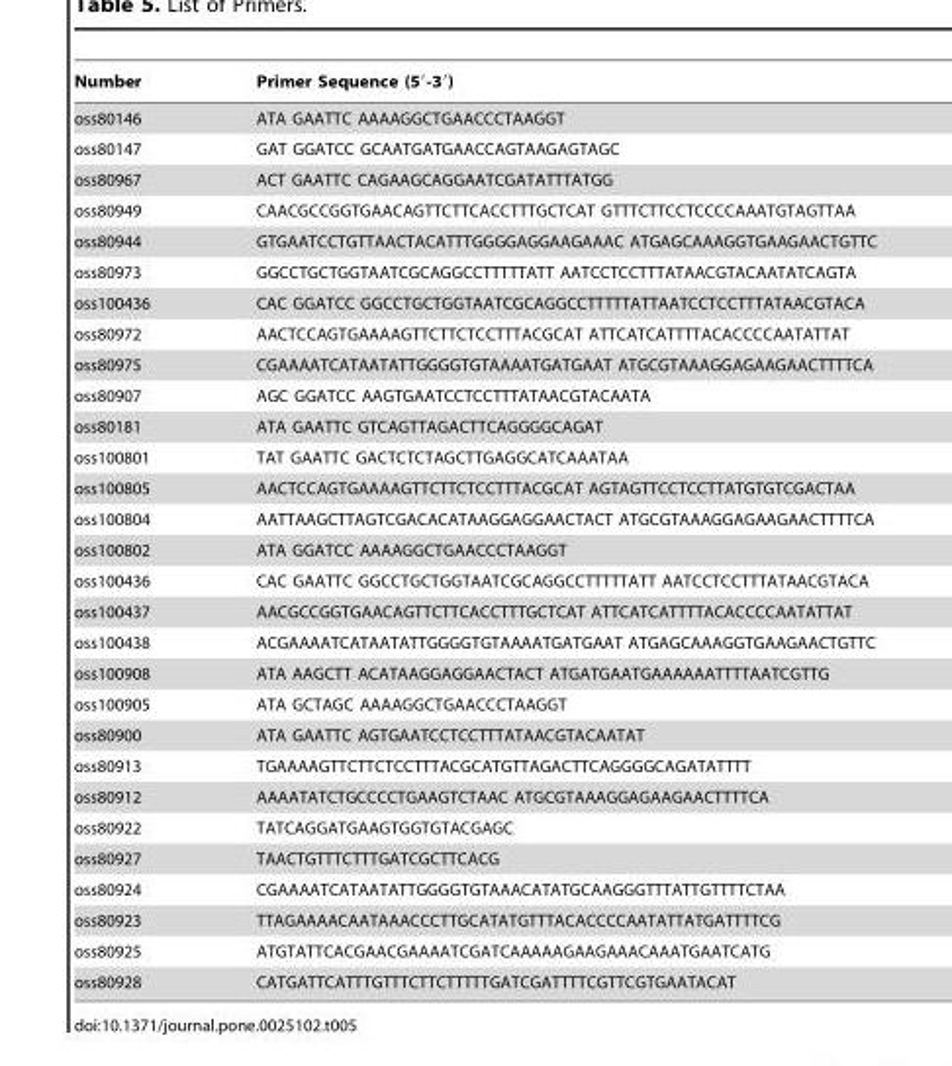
<table><thead><tr><td>Number</td><td>Primer Sequence (5′-3′)</td></tr></thead><tbody><tr><td>oss80146</td><td>ATA GAATTC AAAAGGCTGAACCCTAAGGT</td></tr><tr><td>oss80147</td><td>GAT GGATCC GCAATGATGAACCAGTAAGAGTAGC</td></tr><tr><td>oss80967</td><td>ACT GAATTC CAGAAGCAGGAATCGATATTTATGG</td></tr><tr><td>oss80949</td><td>CAACGCCGGTGAACAGTTCTTCACCTTTGCTCAT GTTTCTTCCTCCCCAAATGTAGTTAA</td></tr><tr><td>oss80944</td><td>GTGAATCCTGTTAACTACATTTGGGGAGGAAGAAAC ATGAGCAAAGGTGAAGAACTGTTC</td></tr><tr><td>oss80973</td><td>GGCCTGCTGGTAATCGCAGGCCTTTTTATT AATCCTCCTTTATAACGTACAATATCAGTA</td></tr><tr><td>oss100436</td><td>CAC GGATCC GGCCTGCTGGTAATCGCAGGCCTTTTTATTAATCCTCCTTTATAACGTACA</td></tr><tr><td>oss80972</td><td>AACTCCAGTGAAAAGTTCTTCTCCTTTACGCAT ATTCATCATTTTACACCCCAATATTAT</td></tr><tr><td>oss80975</td><td>CGAAAATCATAATATTGGGGTGTAAAATGATGAAT ATGCGTAAAGGAGAAGAACTTTTCA</td></tr><tr><td>oss80907</td><td>AGC GGATCC AAGTGAATCCTCCTTTATAACGTACAATA</td></tr><tr><td>oss80181</td><td>ATA GAATTC GTCAGTTAGACTTCAGGGGCAGAT</td></tr><tr><td>oss100801</td><td>TAT GAATTC GACTCTCTAGCTTGAGGCATCAAATAA</td></tr><tr><td>oss100805</td><td>AACTCCAGTGAAAAGTTCTTCTCCTTTACGCAT AGTAGTTCCTCCTTATGTGTCGACTAA</td></tr><tr><td>oss100804</td><td>AATTAAGCTTAGTCGACACATAAGGAGGAACTACT ATGCGTAAAGGAGAAGAACTTTTCA</td></tr><tr><td>oss100802</td><td>ATA GGATCC AAAAGGCTGAACCCTAAGGT</td></tr><tr><td>oss100436</td><td>CAC GAATTC GGCCTGCTGGTAATCGCAGGCCTTTTTATT AATCCTCCTTTATAACGTACA</td></tr><tr><td>oss100437</td><td>AACGCCGGTGAACAGTTCTTCACCTTTGCTCAT ATTCATCATTTTACACCCCAATATTAT</td></tr><tr><td>oss100438</td><td>ACGAAAATCATAATATTGGGGTGTAAAATGATGAAT ATGAGCAAAGGTGAAGAACTGTTC</td></tr><tr><td>oss100908</td><td>ATA AAGCTT ACATAAGGAGGAACTACT ATGATGAATGAAAAAATTTTAATCGTTG</td></tr><tr><td>oss100905</td><td>ATA GCTAGC AAAAGGCTGAACCCTAAGGT</td></tr><tr><td>oss80900</td><td>ATA GAATTC AGTGAATCCTCCTTTATAACGTACAATAT</td></tr><tr><td>oss80913</td><td>TGAAAAGTTCTTCTCCTTTACGCATGTTAGACTTCAGGGGCAGATATTTT</td></tr><tr><td>oss80912</td><td>AAAATATCTGCCCCTGAAGTCTAAC ATGCGTAAAGGAGAAGAACTTTTCA</td></tr><tr><td>oss80922</td><td>TATCAGGATGAAGTGGTGTACGAGC</td></tr><tr><td>oss80927</td><td>TAACTGTTTCTTTGATCGCTTCACG</td></tr><tr><td>oss80924</td><td>CGAAAATCATAATATTGGGGTGTAAACATATGCAAGGGTTTATTGTTTTCTAA</td></tr><tr><td>oss80923</td><td>TTAGAAAACAATAAACCCTTGCATATGTTTACACCCCAATATTATGATTTTCG</td></tr><tr><td>oss80925</td><td>ATGTATTCACGAACGAAAATCGATCAAAAAGAAGAAACAAATGAATCATG</td></tr><tr><td>oss80928</td><td>CATGATTCATTTGTTTCTTCTTTTTGATCGATTTTCGTTCGTGAATACAT</td></tr></tbody></table>